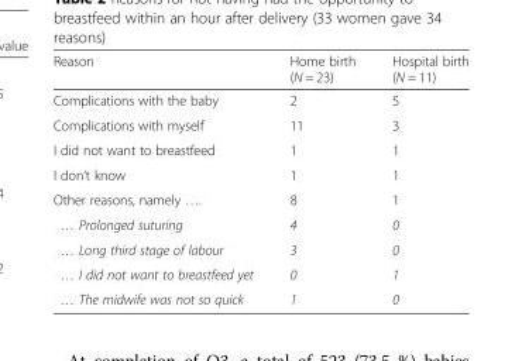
<table><thead><tr><td>Reason</td><td>Home birth (N = 23)</td><td>Hospital birth (N = 11)</td></tr></thead><tbody><tr><td>Complications with the baby</td><td>2</td><td>5</td></tr><tr><td>Complications with myself</td><td>11</td><td>3</td></tr><tr><td>I did not want to breastfeed</td><td>1</td><td>1</td></tr><tr><td>I don’t know</td><td>1</td><td>1</td></tr><tr><td>Other reasons, namely ….</td><td>8</td><td>1</td></tr><tr><td>… Prolonged suturing</td><td>4</td><td>0</td></tr><tr><td>… Long third stage of labour</td><td>3</td><td>0</td></tr><tr><td>… I did not want to breastfeed yet</td><td>0</td><td>1</td></tr><tr><td>… The midwife was not so quick</td><td>1</td><td>0</td></tr></tbody></table>